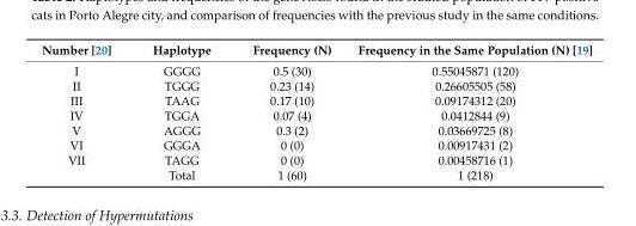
<table><thead><tr><td>Number [20]</td><td>Haplotype</td><td>Frequency (N)</td><td>Frequency in the Same Population (N) [19]</td></tr></thead><tbody><tr><td>I</td><td>GGGG</td><td>0.5 (30)</td><td>0.55045871 (120)</td></tr><tr><td>II</td><td>TGGG</td><td>0.23 (14)</td><td>0.26605505 (58)</td></tr><tr><td>III</td><td>TAAG</td><td>0.17 (10)</td><td>0.09174312 (20)</td></tr><tr><td>IV</td><td>TGGA</td><td>0.07 (4)</td><td>0.0412844 (9)</td></tr><tr><td>V</td><td>AGGG</td><td>0.3 (2)</td><td>0.03669725 (8)</td></tr><tr><td>VI</td><td>GGGA</td><td>0 (0)</td><td>0.00917431 (2)</td></tr><tr><td rowspan="2">VII</td><td>TAGG</td><td>0 (0)</td><td>0.00458716 (1)</td></tr><tr><td>Total</td><td>1 (60)</td><td>1 (218)</td></tr></tbody></table>